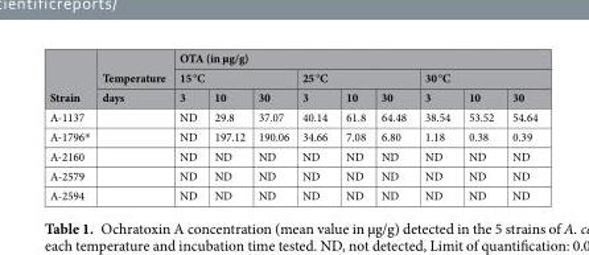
<table><thead><tr><td rowspan="3">Strain</td><td rowspan="3">Temperature days</td><td colspan="9">OTA (in µg/g)</td></tr><tr><td colspan="3">15 °C</td><td colspan="3">25 °C</td><td colspan="3">30 °C</td></tr><tr><td>3</td><td>10</td><td>30</td><td>3</td><td>10</td><td>30</td><td>3</td><td>10</td><td>30</td></tr></thead><tbody><tr><td>A-1137</td><td></td><td>ND</td><td>29.8</td><td>37.07</td><td>40.14</td><td>61.8</td><td>64.48</td><td>38.54</td><td>53.52</td><td>54.64</td></tr><tr><td>A-1796*</td><td></td><td>ND</td><td>197.12</td><td>190.06</td><td>34.66</td><td>7.08</td><td>6.80</td><td>1.18</td><td>0.38</td><td>0.39</td></tr><tr><td>A-2160</td><td></td><td>ND</td><td>ND</td><td>ND</td><td>ND</td><td>ND</td><td>ND</td><td>ND</td><td>ND</td><td>ND</td></tr><tr><td>A-2579</td><td></td><td>ND</td><td>ND</td><td>ND</td><td>ND</td><td>ND</td><td>ND</td><td>ND</td><td>ND</td><td>ND</td></tr><tr><td>A-2594</td><td></td><td>ND</td><td>ND</td><td>ND</td><td>ND</td><td>ND</td><td>ND</td><td>ND</td><td>ND</td><td>ND</td></tr></tbody></table>